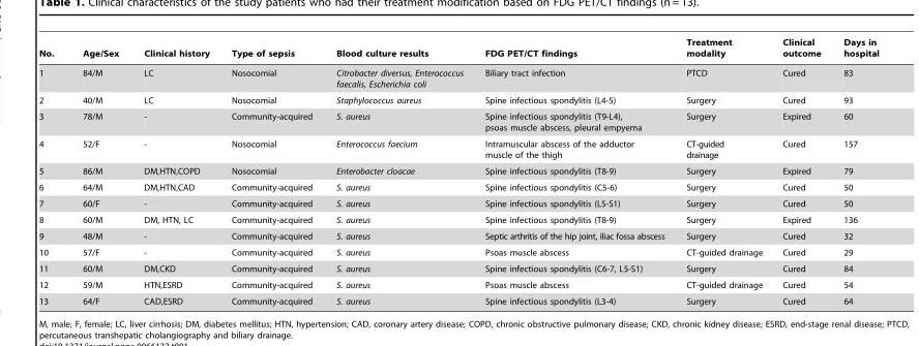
<table><thead><tr><td>No.</td><td>Age/Sex</td><td>Clinical history</td><td>Type of sepsis</td><td>Blood culture results</td><td>FDG PET/CT findings</td><td>Treatment modality</td><td>Clinical outcome</td><td>Days in hospital</td></tr></thead><tbody><tr><td>1</td><td>84/M</td><td>LC</td><td>Nosocomial</td><td>Citrobacter diversus, Enterococcus faecalis, Escherichia coli</td><td>Biliary tract infection</td><td>PTCD</td><td>Cured</td><td>83</td></tr><tr><td>2</td><td>40/M</td><td>LC</td><td>Nosocomial</td><td>Staphylococcus aureus</td><td>Spine infectious spondylitis (L4-5)</td><td>Surgery</td><td>Cured</td><td>93</td></tr><tr><td>3</td><td>78/M</td><td>-</td><td>Community-acquired</td><td>S. aureus</td><td>Spine infectious spondylitis (T9-L4), psoas muscle abscess, pleural empyema</td><td>Surgery</td><td>Expired</td><td>60</td></tr><tr><td>4</td><td>52/F</td><td>-</td><td>Nosocomial</td><td>Enterococcus faecium</td><td>Intramuscular abscess of the adductor muscle of the thigh</td><td>CT-guided drainage</td><td>Cured</td><td>157</td></tr><tr><td>5</td><td>86/M</td><td>DM,HTN,COPD</td><td>Nosocomial</td><td>Enterobacter cloacae</td><td>Spine infectious spondylitis (T8-9)</td><td>Surgery</td><td>Expired</td><td>79</td></tr><tr><td>6</td><td>64/M</td><td>DM,HTN,CAD</td><td>Community-acquired</td><td>S. aureus</td><td>Spine infectious spondylitis (C5-6)</td><td>Surgery</td><td>Cured</td><td>50</td></tr><tr><td>7</td><td>60/F</td><td>-</td><td>Community-acquired</td><td>S. aureus</td><td>Spine infectious spondylitis (L5-S1)</td><td>Surgery</td><td>Cured</td><td>50</td></tr><tr><td>8</td><td>60/M</td><td>DM, HTN, LC</td><td>Community-acquired</td><td>S. aureus</td><td>Spine infectious spondylitis (T8-9)</td><td>Surgery</td><td>Expired</td><td>136</td></tr><tr><td>9</td><td>48/M</td><td>-</td><td>Community-acquired</td><td>S. aureus</td><td>Septic arthritis of the hip joint, iliac fossa abscess</td><td>Surgery</td><td>Cured</td><td>32</td></tr><tr><td>10</td><td>57/F</td><td>-</td><td>Community-acquired</td><td>S. aureus</td><td>Psoas muscle abscess</td><td>CT-guided drainage</td><td>Cured</td><td>29</td></tr><tr><td>11</td><td>60/M</td><td>DM,CKD</td><td>Community-acquired</td><td>S. aureus</td><td>Spine infectious spondylitis (C6-7, L5-S1)</td><td>Surgery</td><td>Cured</td><td>84</td></tr><tr><td>12</td><td>59/M</td><td>HTN,ESRD</td><td>Community-acquired</td><td>S. aureus</td><td>Psoas muscle abscess</td><td>CT-guided drainage</td><td>Cured</td><td>54</td></tr><tr><td>13</td><td>64/F</td><td>CAD,ESRD</td><td>Community-acquired</td><td>S. aureus</td><td>Spine infectious spondylitis (L3-4)</td><td>Surgery</td><td>Cured</td><td>64</td></tr></tbody></table>